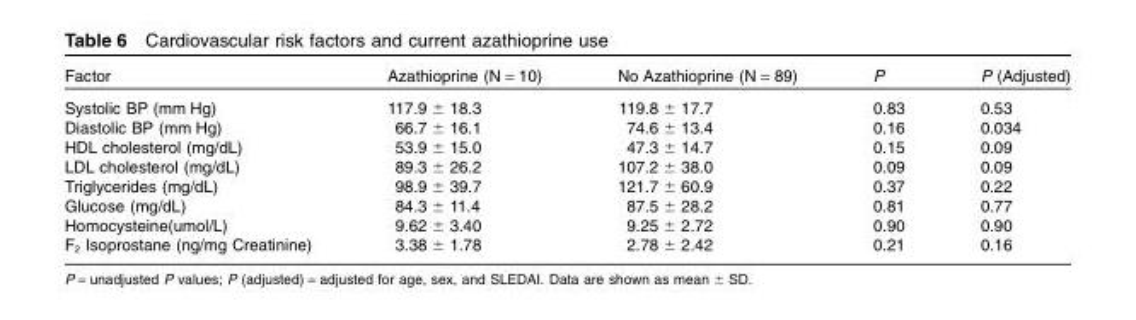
<table><thead><tr><td>Factor</td><td>Azathioprine (N = 10)</td><td>No Azathioprine (N = 89)</td><td>P</td><td>P (Adjusted)</td></tr></thead><tbody><tr><td>Systolic BP (mm Hg)</td><td>117.9 ± 18.3</td><td>119.8 ± 17.7</td><td>0.83</td><td>0.53</td></tr><tr><td>Diastolic BP (mm Hg)</td><td>66.7 ± 16.1</td><td>74.6 ± 13.4</td><td>0.16</td><td>0.034</td></tr><tr><td>HDL cholesterol (mg/dL)</td><td>53.9 ± 15.0</td><td>47.3 ± 14.7</td><td>0.15</td><td>0.09</td></tr><tr><td>LDL cholesterol (mg/dL)</td><td>89.3 ± 26.2</td><td>107.2 ± 38.0</td><td>0.09</td><td>0.09</td></tr><tr><td>Triglycerides (mg/dL)</td><td>98.9 ± 39.7</td><td>121.7 ± 60.9</td><td>0.37</td><td>0.22</td></tr><tr><td>Glucose (mg/dL)</td><td>84.3 ± 11.4</td><td>87.5 ± 28.2</td><td>0.81</td><td>0.77</td></tr><tr><td>Homocysteine(umol/L)</td><td>9.62 ± 3.40</td><td>9.25 ± 2.72</td><td>0.90</td><td>0.90</td></tr><tr><td>F<sub>2</sub> Isoprostane (ng/mg Creatinine)</td><td>3.38 ± 1.78</td><td>2.78 ± 2.42</td><td>0.21</td><td>0.16</td></tr></tbody></table>